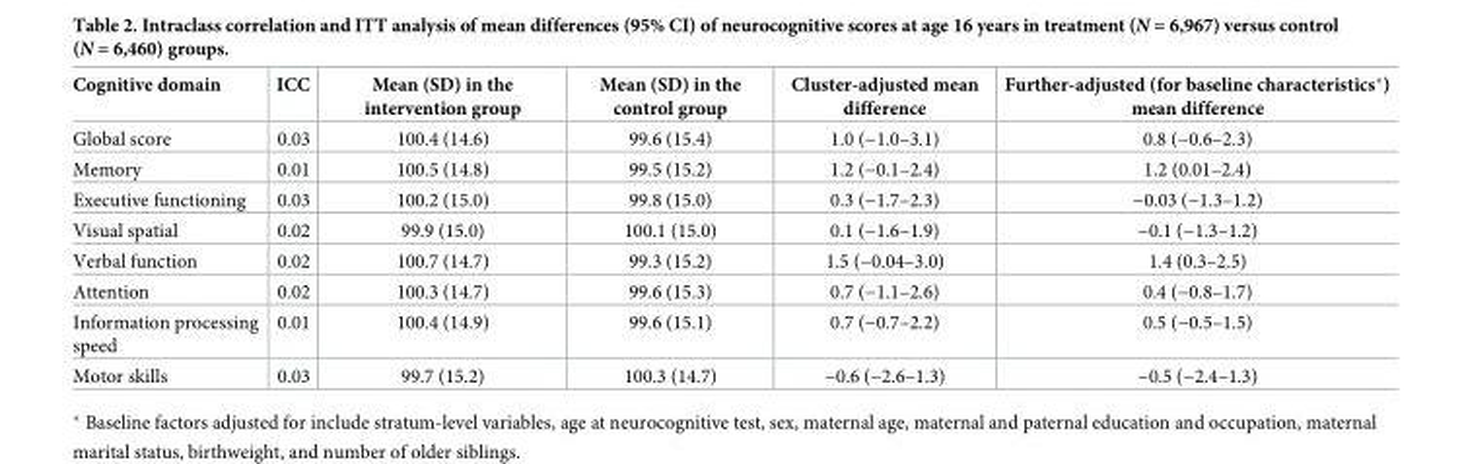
<table><thead><tr><td>Cognitive domain</td><td>ICC</td><td>Mean (SD) in the intervention group</td><td>Mean (SD) in the control group</td><td>Cluster-adjusted mean difference</td><td>Further-adjusted (for baseline characteristics*) mean difference</td></tr></thead><tbody><tr><td>Global score</td><td>0.03</td><td>100.4 (14.6)</td><td>99.6 (15.4)</td><td>1.0 (−1.0–3.1)</td><td>0.8 (−0.6–2.3)</td></tr><tr><td>Memory</td><td>0.01</td><td>100.5 (14.8)</td><td>99.5 (15.2)</td><td>1.2 (−0.1–2.4)</td><td>1.2 (0.01–2.4)</td></tr><tr><td>Executive functioning</td><td>0.03</td><td>100.2 (15.0)</td><td>99.8 (15.0)</td><td>0.3 (−1.7–2.3)</td><td>−0.03 (−1.3–1.2)</td></tr><tr><td>Visual spatial</td><td>0.02</td><td>99.9 (15.0)</td><td>100.1 (15.0)</td><td>0.1 (−1.6–1.9)</td><td>−0.1 (−1.3–1.2)</td></tr><tr><td>Verbal function</td><td>0.02</td><td>100.7 (14.7)</td><td>99.3 (15.2)</td><td>1.5 (−0.04–3.0)</td><td>1.4 (0.3–2.5)</td></tr><tr><td>Attention</td><td>0.02</td><td>100.3 (14.7)</td><td>99.6 (15.3)</td><td>0.7 (−1.1–2.6)</td><td>0.4 (−0.8–1.7)</td></tr><tr><td>Information processing speed</td><td>0.01</td><td>100.4 (14.9)</td><td>99.6 (15.1)</td><td>0.7 (−0.7–2.2)</td><td>0.5 (−0.5–1.5)</td></tr><tr><td>Motor skills</td><td>0.03</td><td>99.7 (15.2)</td><td>100.3 (14.7)</td><td>−0.6 (−2.6–1.3)</td><td>−0.5 (−2.4–1.3)</td></tr></tbody></table>